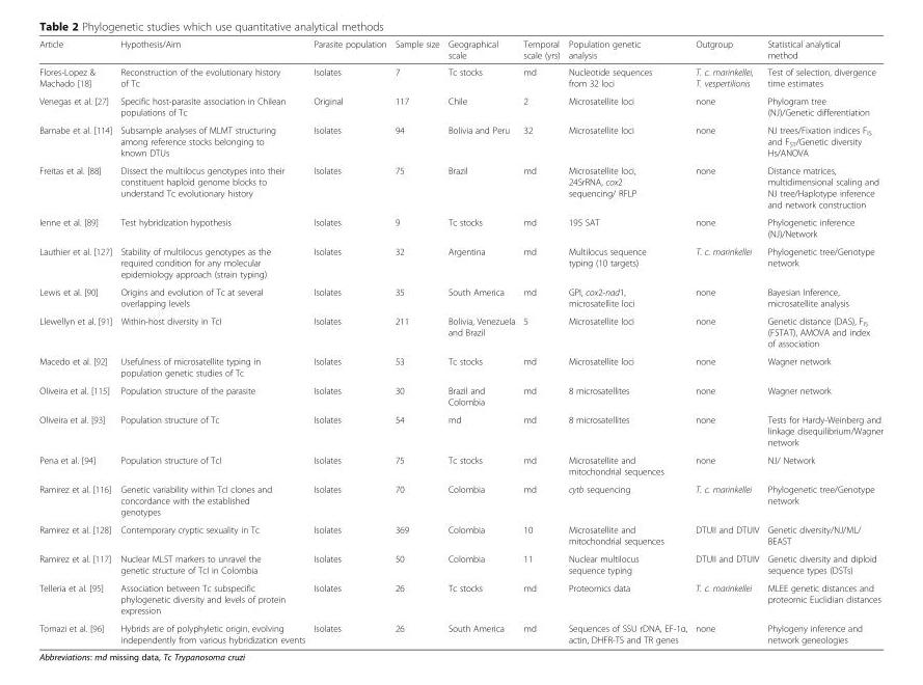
<table><thead><tr><td>Article</td><td>Hypothesis/Aim</td><td>Parasite population</td><td>Sample size</td><td>Geographical scale</td><td>Temporal scale (yrs)</td><td>Population genetic analysis</td><td>Outgroup</td><td>Statistical analytical method</td></tr></thead><tbody><tr><td>Flores-Lopez &amp; Machado [18]</td><td>Reconstruction of the evolutionary history of Tc</td><td>Isolates</td><td>7</td><td>Tc stocks</td><td>md</td><td>Nucleotide sequences from 32 loci</td><td>T. c. marinkellei, T. vespertilionis</td><td>Test of selection, divergence time estimates</td></tr><tr><td>Venegas et al. [27]</td><td>Specific host-parasite association in Chilean populations of Tc</td><td>Original</td><td>117</td><td>Chile</td><td>2</td><td>Microsatellite loci</td><td>none</td><td>Phylogram tree (NJ)/Genetic differentiation</td></tr><tr><td>Barnabe et al. [114]</td><td>Subsample analyses of MLMT structuring among reference stocks belonging to known DTUs</td><td>Isolates</td><td>94</td><td>Bolivia and Peru</td><td>32</td><td>Microsatellite loci</td><td>none</td><td>NJ trees/Fixation indices F<sub>IS</sub> and F<sub>ST</sub>/Genetic diversity Hs/ANOVA</td></tr><tr><td>Freitas et al. [88]</td><td>Dissect the multilocus genotypes into their constituent haploid genome blocks to understand Tc evolutionary history</td><td>Isolates</td><td>75</td><td>Brazil</td><td>md</td><td>Microsatellite loci, 24SrRNA, cox2 sequencing/ RFLP</td><td>none</td><td>Distance matrices, multidimensional scaling and NJ tree/Haplotype inference and network construction</td></tr><tr><td>Ienne et al. [89]</td><td>Test hybridization hypothesis</td><td>Isolates</td><td>9</td><td>Tc stocks</td><td>md</td><td>195 SAT</td><td>none</td><td>Phylogenetic inference (NJ)/Network</td></tr><tr><td>Lauthier et al. [127]</td><td>Stability of multilocus genotypes as the required condition for any molecular epidemiology approach (strain typing)</td><td>Isolates</td><td>32</td><td>Argentina</td><td>md</td><td>Multilocus sequence typing (10 targets)</td><td>T. c. marinkellei</td><td>Phylogenetic tree/Genotype network</td></tr><tr><td>Lewis et al. [90]</td><td>Origins and evolution of Tc at several overlapping levels</td><td>Isolates</td><td>35</td><td>South America</td><td>md</td><td>GPI, cox2-nad1, microsatellite loci</td><td>none</td><td>Bayesian Inference, microsatellite analysis</td></tr><tr><td>Llewellyn et al. [91]</td><td>Within-host diversity in TcI</td><td>Isolates</td><td>211</td><td>Bolivia, Venezuela and Brazil</td><td>5</td><td>Microsatellite loci</td><td>none</td><td>Genetic distance (DAS), F<sub>IS</sub> (FSTAT), AMOVA and index of association</td></tr><tr><td>Macedo et al. [92]</td><td>Usefulness of microsatellite typing in population genetic studies of Tc</td><td>Isolates</td><td>53</td><td>Tc stocks</td><td>md</td><td>Microsatellite loci</td><td>none</td><td>Wagner network</td></tr><tr><td>Oliveira et al. [115]</td><td>Population structure of the parasite</td><td>Isolates</td><td>30</td><td>Brazil and Colombia</td><td>md</td><td>8 microsatellites</td><td>none</td><td>Wagner network</td></tr><tr><td>Oliveira et al. [93]</td><td>Population structure of Tc</td><td>Isolates</td><td>54</td><td>md</td><td>md</td><td>8 microsatellites</td><td>none</td><td>Tests for Hardy-Weinberg and linkage disequilibrium/Wagner network</td></tr><tr><td>Pena et al. [94]</td><td>Population structure of TcI</td><td>Isolates</td><td>75</td><td>Tc stocks</td><td>md</td><td>Microsatellite and mitochondrial sequences</td><td>none</td><td>NJ/ Network</td></tr><tr><td>Ramirez et al. [116]</td><td>Genetic variability within TcI clones and concordance with the established genotypes</td><td>Isolates</td><td>70</td><td>Colombia</td><td>md</td><td>cytb sequencing</td><td>T. c. marinkellei</td><td>Phylogenetic tree/Genotype network</td></tr><tr><td>Ramirez et al. [128]</td><td>Contemporary cryptic sexuality in Tc</td><td>Isolates</td><td>369</td><td>Colombia</td><td>10</td><td>Microsatellite and mitochondrial sequences</td><td>DTUII and DTUIV</td><td>Genetic diversity/NJ/ML/ BEAST</td></tr><tr><td>Ramirez et al. [117]</td><td>Nuclear MLST markers to unravel the genetic structure of TcI in Colombia</td><td>Isolates</td><td>50</td><td>Colombia</td><td>11</td><td>Nuclear multilocus sequence typing</td><td>DTUII and DTUIV</td><td>Genetic diversity and diploid sequence types (DSTs)</td></tr><tr><td>Telleria et al. [95]</td><td>Association between Tc subspecific phylogenetic diversity and levels of protein expression</td><td>Isolates</td><td>26</td><td>Tc stocks</td><td>md</td><td>Proteomics data</td><td>T. c. marinkellei</td><td>MLEE genetic distances and proteomic Euclidian distances</td></tr><tr><td>Tomazi et al. [96]</td><td>Hybrids are of polyphyletic origin, evolving independently from various hybridization events</td><td>Isolates</td><td>26</td><td>South America</td><td>md</td><td>Sequences of SSU rDNA, EF-1α, actin, DHFR-TS and TR genes</td><td>none</td><td>Phylogeny inference and network geneologies</td></tr></tbody></table>